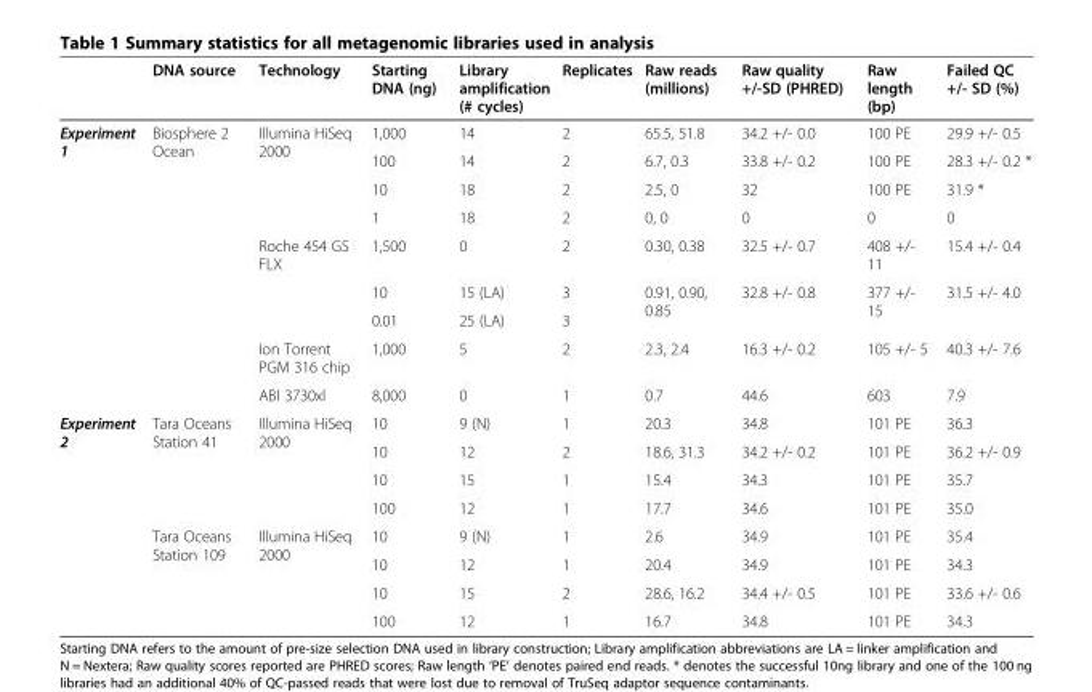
<table><thead><tr><td></td><td>DNA source</td><td>Technology</td><td>Starting DNA (ng)</td><td>Library amplification (# cycles)</td><td>Replicates</td><td>Raw reads (millions)</td><td>Raw quality +/-SD (PHRED)</td><td>Raw length (bp)</td><td>Failed QC +/- SD (%)</td></tr></thead><tbody><tr><td rowspan="9">Experiment 1</td><td rowspan="9">Biosphere 2 Ocean</td><td rowspan="4">Illumina HiSeq 2000</td><td>1,000</td><td>14</td><td>2</td><td>65.5, 51.8</td><td>34.2 +/- 0.0</td><td>100 PE</td><td>29.9 +/- 0.5</td></tr><tr><td>100</td><td>14</td><td>2</td><td>6.7, 0.3</td><td>33.8 +/- 0.2</td><td>100 PE</td><td>28.3 +/- 0.2 *</td></tr><tr><td>10</td><td>18</td><td>2</td><td>2.5, 0</td><td>32</td><td>100 PE</td><td>31.9 *</td></tr><tr><td>1</td><td>18</td><td>2</td><td>0, 0</td><td>0</td><td>0</td><td>0</td></tr><tr><td rowspan="3">Roche 454 GS FLX</td><td>1,500</td><td>0</td><td>2</td><td>0.30, 0.38</td><td>32.5 +/- 0.7</td><td>408 +/- 11</td><td>15.4 +/- 0.4</td></tr><tr><td>10</td><td>15 (LA)</td><td>3</td><td rowspan="2">0.91, 0.90, 0.85</td><td rowspan="2">32.8 +/- 0.8</td><td rowspan="2">377 +/- 15</td><td rowspan="2">31.5 +/- 4.0</td></tr><tr><td>0.01</td><td>25 (LA)</td><td>3</td></tr><tr><td>Ion Torrent PGM 316 chip</td><td>1,000</td><td>5</td><td>2</td><td>2.3, 2.4</td><td>16.3 +/- 0.2</td><td>105 +/- 5</td><td>40.3 +/- 7.6</td></tr><tr><td>ABI 3730xl</td><td>8,000</td><td>0</td><td>1</td><td>0.7</td><td>44.6</td><td>603</td><td>7.9</td></tr><tr><td rowspan="8">Experiment 2</td><td rowspan="4">Tara Oceans Station 41</td><td rowspan="4">Illumina HiSeq 2000</td><td>10</td><td>9 (N)</td><td>1</td><td>20.3</td><td>34.8</td><td>101 PE</td><td>36.3</td></tr><tr><td>10</td><td>12</td><td>2</td><td>18.6, 31.3</td><td>34.2 +/- 0.2</td><td>101 PE</td><td>36.2 +/- 0.9</td></tr><tr><td>10</td><td>15</td><td>1</td><td>15.4</td><td>34.3</td><td>101 PE</td><td>35.7</td></tr><tr><td>100</td><td>12</td><td>1</td><td>17.7</td><td>34.6</td><td>101 PE</td><td>35.0</td></tr><tr><td rowspan="4">Tara Oceans Station 109</td><td rowspan="4">Illumina HiSeq 2000</td><td>10</td><td>9 (N)</td><td>1</td><td>2.6</td><td>34.9</td><td>101 PE</td><td>35.4</td></tr><tr><td>10</td><td>12</td><td>1</td><td>20.4</td><td>34.9</td><td>101 PE</td><td>34.3</td></tr><tr><td>10</td><td>15</td><td>2</td><td>28.6, 16.2</td><td>34.4 +/- 0.5</td><td>101 PE</td><td>33.6 +/- 0.6</td></tr><tr><td>100</td><td>12</td><td>1</td><td>16.7</td><td>34.8</td><td>101 PE</td><td>34.3</td></tr></tbody></table>